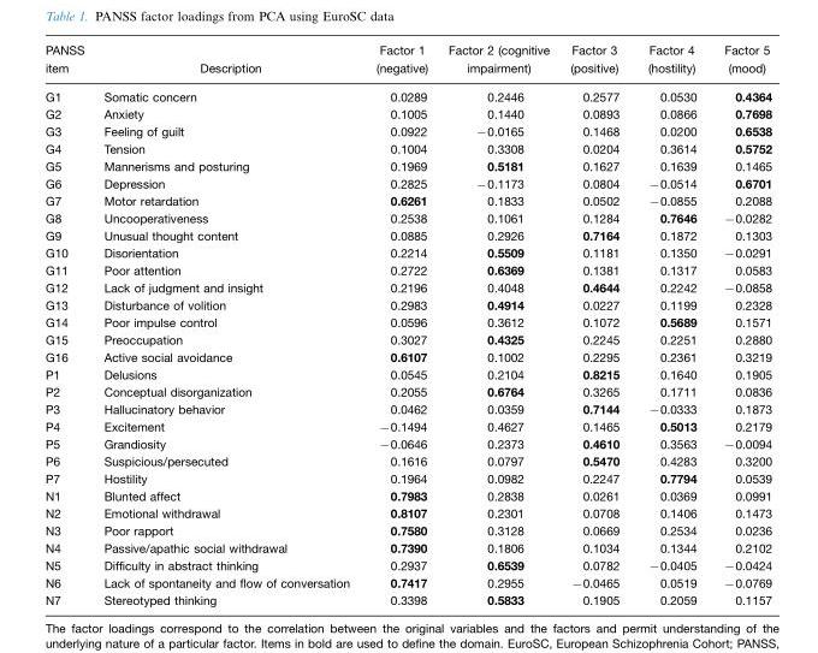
<table><thead><tr><td>PANSS item</td><td>Description</td><td>Factor 1 (negative)</td><td>Factor 2 (cognitive impairment)</td><td>Factor 3 (positive)</td><td>Factor 4 (hostility)</td><td>Factor 5 (mood)</td></tr></thead><tbody><tr><td>G1</td><td>Somatic concern</td><td>0.0289</td><td>0.2446</td><td>0.2577</td><td>0.0530</td><td>0.4364</td></tr><tr><td>G2</td><td>Anxiety</td><td>0.1005</td><td>0.1440</td><td>0.0893</td><td>0.0866</td><td>0.7698</td></tr><tr><td>G3</td><td>Feeling of guilt</td><td>0.0922</td><td>−0.0165</td><td>0.1468</td><td>0.0200</td><td>0.6538</td></tr><tr><td>G4</td><td>Tension</td><td>0.1004</td><td>0.3308</td><td>0.0204</td><td>0.3614</td><td>0.5752</td></tr><tr><td>G5</td><td>Mannerisms and posturing</td><td>0.1969</td><td>0.5181</td><td>0.1627</td><td>0.1639</td><td>0.1465</td></tr><tr><td>G6</td><td>Depression</td><td>0.2825</td><td>−0.1173</td><td>0.0804</td><td>−0.0514</td><td>0.6701</td></tr><tr><td>G7</td><td>Motor retardation</td><td>0.6261</td><td>0.1833</td><td>0.0502</td><td>−0.0855</td><td>0.2088</td></tr><tr><td>G8</td><td>Uncooperativeness</td><td>0.2538</td><td>0.1061</td><td>0.1284</td><td>0.7646</td><td>−0.0282</td></tr><tr><td>G9</td><td>Unusual thought content</td><td>0.0885</td><td>0.2926</td><td>0.7164</td><td>0.1872</td><td>0.1303</td></tr><tr><td>G10</td><td>Disorientation</td><td>0.2214</td><td>0.5509</td><td>0.1181</td><td>0.1350</td><td>−0.0291</td></tr><tr><td>G11</td><td>Poor attention</td><td>0.2722</td><td>0.6369</td><td>0.1381</td><td>0.1317</td><td>0.0583</td></tr><tr><td>G12</td><td>Lack of judgment and insight</td><td>0.2196</td><td>0.4048</td><td>0.4644</td><td>0.2242</td><td>−0.0858</td></tr><tr><td>G13</td><td>Disturbance of volition</td><td>0.2983</td><td>0.4914</td><td>0.0227</td><td>0.1199</td><td>0.2328</td></tr><tr><td>G14</td><td>Poor impulse control</td><td>0.0596</td><td>0.3612</td><td>0.1072</td><td>0.5689</td><td>0.1571</td></tr><tr><td>G15</td><td>Preoccupation</td><td>0.3027</td><td>0.4325</td><td>0.2245</td><td>0.2251</td><td>0.2880</td></tr><tr><td>G16</td><td>Active social avoidance</td><td>0.6107</td><td>0.1002</td><td>0.2295</td><td>0.2361</td><td>0.3219</td></tr><tr><td>P1</td><td>Delusions</td><td>0.0545</td><td>0.2104</td><td>0.8215</td><td>0.1640</td><td>0.1905</td></tr><tr><td>P2</td><td>Conceptual disorganization</td><td>0.2055</td><td>0.6764</td><td>0.3265</td><td>0.1711</td><td>0.0836</td></tr><tr><td>P3</td><td>Hallucinatory behavior</td><td>0.0462</td><td>0.0359</td><td>0.7144</td><td>−0.0333</td><td>0.1873</td></tr><tr><td>P4</td><td>Excitement</td><td>−0.1494</td><td>0.4627</td><td>0.1465</td><td>0.5013</td><td>0.2179</td></tr><tr><td>P5</td><td>Grandiosity</td><td>−0.0646</td><td>0.2373</td><td>0.4610</td><td>0.3563</td><td>−0.0094</td></tr><tr><td>P6</td><td>Suspicious/persecuted</td><td>0.1616</td><td>0.0797</td><td>0.5470</td><td>0.4283</td><td>0.3200</td></tr><tr><td>P7</td><td>Hostility</td><td>0.1964</td><td>0.0982</td><td>0.2247</td><td>0.7794</td><td>0.0539</td></tr><tr><td>N1</td><td>Blunted affect</td><td>0.7983</td><td>0.2838</td><td>0.0261</td><td>0.0369</td><td>0.0991</td></tr><tr><td>N2</td><td>Emotional withdrawal</td><td>0.8107</td><td>0.2301</td><td>0.0708</td><td>0.1406</td><td>0.1473</td></tr><tr><td>N3</td><td>Poor rapport</td><td>0.7580</td><td>0.3128</td><td>0.0669</td><td>0.2534</td><td>0.0236</td></tr><tr><td>N4</td><td>Passive/apathic social withdrawal</td><td>0.7390</td><td>0.1806</td><td>0.1034</td><td>0.1344</td><td>0.2102</td></tr><tr><td>N5</td><td>Difficulty in abstract thinking</td><td>0.2937</td><td>0.6539</td><td>0.0782</td><td>−0.0405</td><td>−0.0424</td></tr><tr><td>N6</td><td>Lack of spontaneity and flow of conversation</td><td>0.7417</td><td>0.2955</td><td>−0.0465</td><td>0.0519</td><td>−0.0769</td></tr><tr><td>N7</td><td>Stereotyped thinking</td><td>0.3398</td><td>0.5833</td><td>0.1905</td><td>0.2059</td><td>0.1157</td></tr></tbody></table>